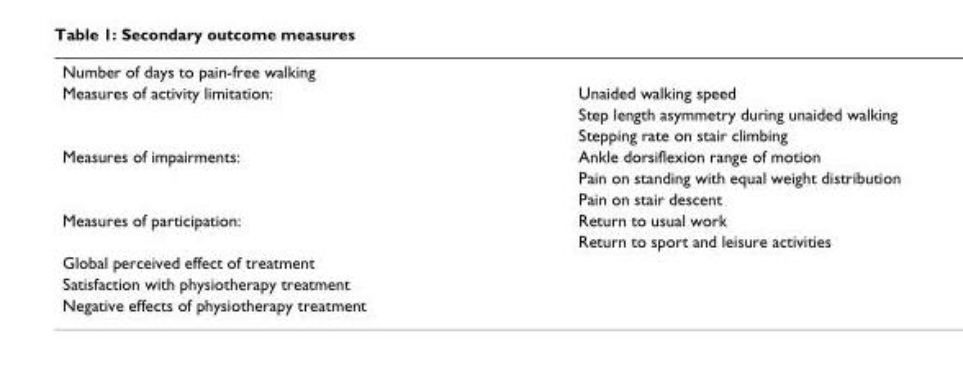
<table><tbody><tr><td colspan="2">Number of days to pain-free walking</td></tr><tr><td rowspan="3">Measures of activity limitation:</td><td>Unaided walking speed</td></tr><tr><td>Step length asymmetry during unaided walking</td></tr><tr><td>Stepping rate on stair climbing</td></tr><tr><td rowspan="3">Measures of impairments:</td><td>Ankle dorsiflexion range of motion</td></tr><tr><td>Pain on standing with equal weight distribution</td></tr><tr><td>Pain on stair descent</td></tr><tr><td rowspan="2">Measures of participation:</td><td>Return to usual work</td></tr><tr><td>Return to sport and leisure activities</td></tr><tr><td colspan="2">Global perceived effect of treatment</td></tr><tr><td colspan="2">Satisfaction with physiotherapy treatment</td></tr><tr><td colspan="2">Negative effects of physiotherapy treatment</td></tr></tbody></table>